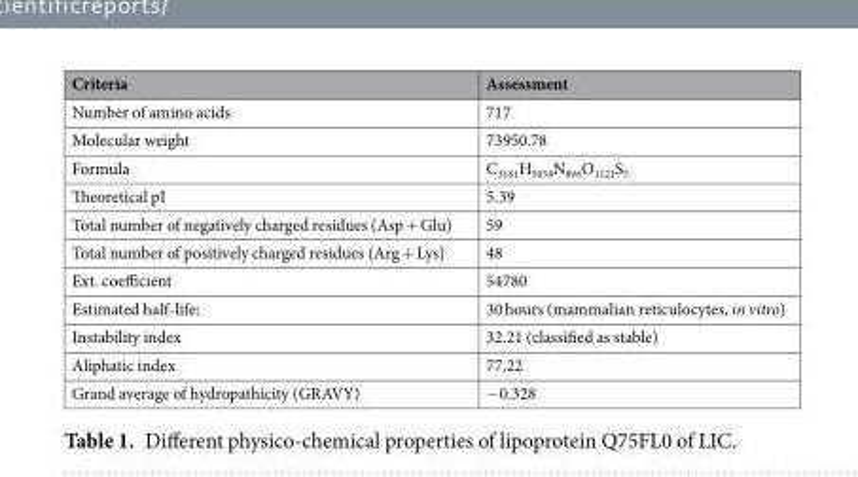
<table><thead><tr><td>Criteria</td><td>Assessment</td></tr></thead><tbody><tr><td>Number of amino acids</td><td>717</td></tr><tr><td>Molecular weight</td><td>73950.78</td></tr><tr><td>Formula</td><td>C<sub>3181</sub>H<sub>5058</sub>N<sub>896</sub>O<sub>1121</sub>S<sub>5</sub></td></tr><tr><td>Theoretical pI</td><td>5.39</td></tr><tr><td>Total number of negatively charged residues (Asp + Glu)</td><td>59</td></tr><tr><td>Total number of positively charged residues (Arg + Lys)</td><td>48</td></tr><tr><td>Ext. coefficient</td><td>54780</td></tr><tr><td>Estimated half-life:</td><td>30 hours (mammalian reticulocytes, in vitro)</td></tr><tr><td>Instability index</td><td>32.21 (classified as stable)</td></tr><tr><td>Aliphatic index</td><td>77.22</td></tr><tr><td>Grand average of hydropathicity (GRAVY)</td><td>−0.328</td></tr></tbody></table>